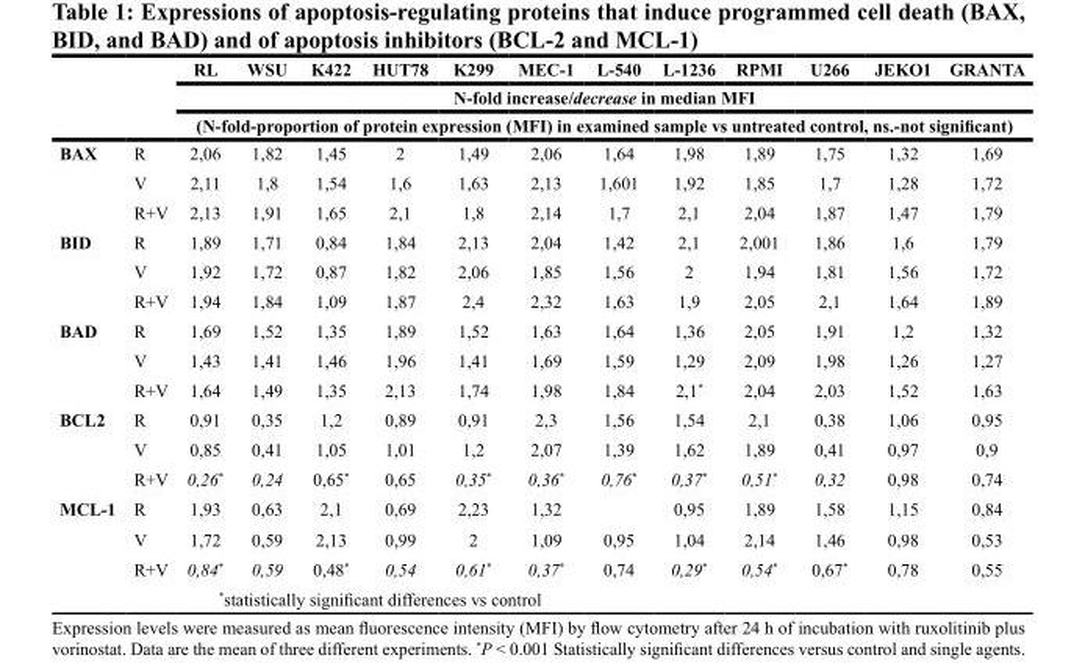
<table><thead><tr><td rowspan="3"></td><td rowspan="3"></td><td>RL</td><td>WSU</td><td>K422</td><td>HUT78</td><td>K299</td><td>MEC-1</td><td>L-540</td><td>L-1236</td><td>RPMI</td><td>U266</td><td>JEKO1</td><td>GRANTA</td></tr><tr><td rowspan="2" colspan="12">N-fold increase/decrease in median MFI (N-fold-proportion of protein expression (MFI) in examined sample vs untreated control, ns.-not significant)</td></tr><tr></tr></thead><tbody><tr><td rowspan="3">BAX</td><td>R</td><td>2,06</td><td>1,82</td><td>1,45</td><td>2</td><td>1,49</td><td>2,06</td><td>1,64</td><td>1,98</td><td>1,89</td><td>1,75</td><td>1,32</td><td>1,69</td></tr><tr><td>V</td><td>2,11</td><td>1,8</td><td>1,54</td><td>1,6</td><td>1,63</td><td>2,13</td><td>1,601</td><td>1,92</td><td>1,85</td><td>1,7</td><td>1,28</td><td>1,72</td></tr><tr><td>R+V</td><td>2,13</td><td>1,91</td><td>1,65</td><td>2,1</td><td>1,8</td><td>2,14</td><td>1,7</td><td>2,1</td><td>2,04</td><td>1,87</td><td>1,47</td><td>1,79</td></tr><tr><td rowspan="3">BID</td><td>R</td><td>1,89</td><td>1,71</td><td>0,84</td><td>1,84</td><td>2,13</td><td>2,04</td><td>1,42</td><td>2,1</td><td>2,001</td><td>1,86</td><td>1,6</td><td>1,79</td></tr><tr><td>V</td><td>1,92</td><td>1,72</td><td>0,87</td><td>1,82</td><td>2,06</td><td>1,85</td><td>1,56</td><td>2</td><td>1,94</td><td>1,81</td><td>1,56</td><td>1,72</td></tr><tr><td>R+V</td><td>1,94</td><td>1,84</td><td>1,09</td><td>1,87</td><td>2,4</td><td>2,32</td><td>1,63</td><td>1,9</td><td>2,05</td><td>2,1</td><td>1,64</td><td>1,89</td></tr><tr><td rowspan="3">BAD</td><td>R</td><td>1,69</td><td>1,52</td><td>1,35</td><td>1,89</td><td>1,52</td><td>1,63</td><td>1,64</td><td>1,36</td><td>2,05</td><td>1,91</td><td>1,2</td><td>1,32</td></tr><tr><td>V</td><td>1,43</td><td>1,41</td><td>1,46</td><td>1,96</td><td>1,41</td><td>1,69</td><td>1,59</td><td>1,29</td><td>2,09</td><td>1,98</td><td>1,26</td><td>1,27</td></tr><tr><td>R+V</td><td>1,64</td><td>1,49</td><td>1,35</td><td>2,13</td><td>1,74</td><td>1,98</td><td>1,84</td><td>2,1*</td><td>2,04</td><td>2,03</td><td>1,52</td><td>1,63</td></tr><tr><td rowspan="3">BCL2</td><td>R</td><td>0,91</td><td>0,35</td><td>1,2</td><td>0,89</td><td>0,91</td><td>2,3</td><td>1,56</td><td>1,54</td><td>2,1</td><td>0,38</td><td>1,06</td><td>0,95</td></tr><tr><td>V</td><td>0,85</td><td>0,41</td><td>1,05</td><td>1,01</td><td>1,2</td><td>2,07</td><td>1,39</td><td>1,62</td><td>1,89</td><td>0,41</td><td>0,97</td><td>0,9</td></tr><tr><td>R+V</td><td>0,26*</td><td>0,24</td><td>0,65*</td><td>0,65</td><td>0,35*</td><td>0,36*</td><td>0,76*</td><td>0,37*</td><td>0,51*</td><td>0,32</td><td>0,98</td><td>0,74</td></tr><tr><td rowspan="4">MCL-1</td><td>R</td><td>1,93</td><td>0,63</td><td>2,1</td><td>0,69</td><td>2,23</td><td>1,32</td><td></td><td>0,95</td><td>1,89</td><td>1,58</td><td>1,15</td><td>0,84</td></tr><tr><td>V</td><td>1,72</td><td>0,59</td><td>2,13</td><td>0,99</td><td>2</td><td>1,09</td><td>0,95</td><td>1,04</td><td>2,14</td><td>1,46</td><td>0,98</td><td>0,53</td></tr><tr><td>R+V</td><td>0,84*</td><td>0,59</td><td>0,48*</td><td>0,54</td><td>0,61*</td><td>0,37*</td><td>0,74</td><td>0,29*</td><td>0,54*</td><td>0,67*</td><td>0,78</td><td>0,55</td></tr><tr><td></td><td colspan="6">*statistically significant differences vs control</td><td></td><td></td><td></td><td></td><td></td><td></td></tr></tbody></table>